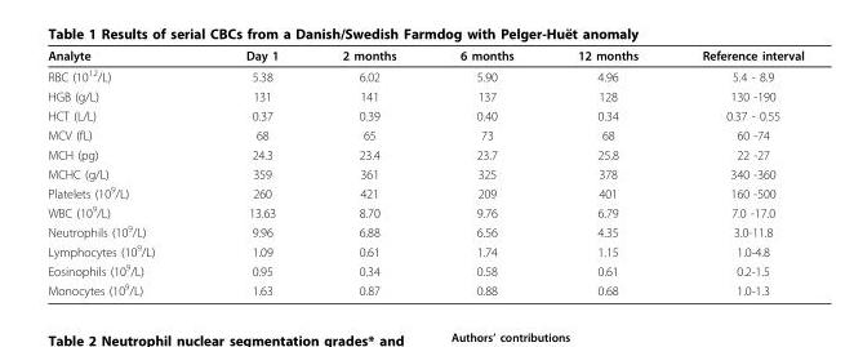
<table><thead><tr><td>Analyte</td><td>Day 1</td><td>2 months</td><td>6 months</td><td>12 months</td><td>Reference interval</td></tr></thead><tbody><tr><td>RBC (10<sup>12</sup>/L)</td><td>5.38</td><td>6.02</td><td>5.90</td><td>4.96</td><td>5.4 - 8.9</td></tr><tr><td>HGB (g/L)</td><td>131</td><td>141</td><td>137</td><td>128</td><td>130 -190</td></tr><tr><td>HCT (L/L)</td><td>0.37</td><td>0.39</td><td>0.40</td><td>0.34</td><td>0.37 - 0.55</td></tr><tr><td>MCV (fL)</td><td>68</td><td>65</td><td>73</td><td>68</td><td>60 -74</td></tr><tr><td>MCH (pg)</td><td>24.3</td><td>23.4</td><td>23.7</td><td>25.8</td><td>22 -27</td></tr><tr><td>MCHC (g/L)</td><td>359</td><td>361</td><td>325</td><td>378</td><td>340 -360</td></tr><tr><td>Platelets (10<sup>9</sup>/L)</td><td>260</td><td>421</td><td>209</td><td>401</td><td>160 -500</td></tr><tr><td>WBC (10<sup>9</sup>/L)</td><td>13.63</td><td>8.70</td><td>9.76</td><td>6.79</td><td>7.0 -17.0</td></tr><tr><td>Neutrophils (10<sup>9</sup>/L)</td><td>9.96</td><td>6.88</td><td>6.56</td><td>4.35</td><td>3.0-11.8</td></tr><tr><td>Lymphocytes (10<sup>9</sup>/L)</td><td>1.09</td><td>0.61</td><td>1.74</td><td>1.15</td><td>1.0-4.8</td></tr><tr><td>Eosinophils (10<sup>9</sup>/L)</td><td>0.95</td><td>0.34</td><td>0.58</td><td>0.61</td><td>0.2-1.5</td></tr><tr><td>Monocytes (10<sup>9</sup>/L)</td><td>1.63</td><td>0.87</td><td>0.88</td><td>0.68</td><td>1.0-1.3</td></tr></tbody></table>